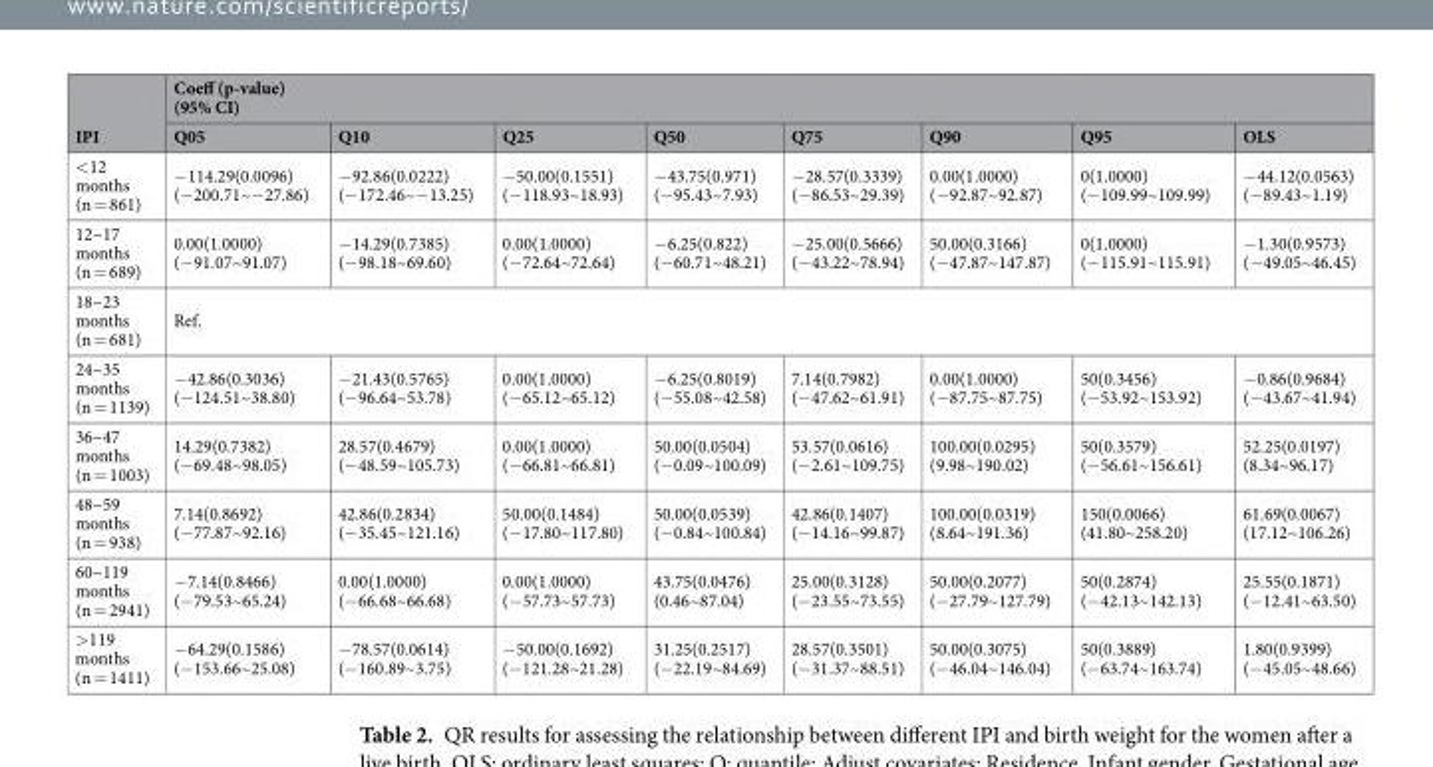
<table><thead><tr><td rowspan="2">IPI</td><td colspan="8">Coeff (p-value) (95% CI)</td></tr><tr><td>Q05</td><td>Q10</td><td>Q25</td><td>Q50</td><td>Q75</td><td>Q90</td><td>Q95</td><td>OLS</td></tr></thead><tbody><tr><td>&lt;12 months (n = 861)</td><td>−114.29(0.0096) (−200.71~−27.86)</td><td>−92.86(0.0222) (−172.46~−13.25)</td><td>−50.00(0.1551) (−118.93~18.93)</td><td>−43.75(0.971) (−95.43~7.93)</td><td>−28.57(0.3339) (−86.53~29.39)</td><td>0.00(1.0000) (−92.87~92.87)</td><td>0(1.0000) (−109.99~109.99)</td><td>−44.12(0.0563) (−89.43~1.19)</td></tr><tr><td>12~17 months (n = 689)</td><td>0.00(1.0000) (−91.07~91.07)</td><td>−14.29(0.7385) (−98.18~69.60)</td><td>0.00(1.0000) (−72.64~72.64)</td><td>−6.25(0.822) (−60.71~48.21)</td><td>−25.00(0.5666) (−43.22~78.94)</td><td>50.00(0.3166) (−47.87~147.87)</td><td>0(1.0000) (−115.91~115.91)</td><td>−1.30(0.9573) (−49.05~46.45)</td></tr><tr><td>18~23 months (n = 681)</td><td colspan="8">Ref.</td></tr><tr><td>24~35 months (n = 1139)</td><td>−42.86(0.3036) (−124.51~38.80)</td><td>−21.43(0.5765) (−96.64~53.78)</td><td>0.00(1.0000) (−65.12~65.12)</td><td>−6.25(0.8019) (−55.08~42.58)</td><td>7.14(0.7982) (−47.62~61.91)</td><td>0.00(1.0000) (−87.75~87.75)</td><td>50(0.3456) (−53.92~153.92)</td><td>−0.86(0.9684) (−43.67~41.94)</td></tr><tr><td>36~47 months (n = 1003)</td><td>14.29(0.7382) (−69.48~98.05)</td><td>28.57(0.4679) (−48.59~105.73)</td><td>0.00(1.0000) (−66.81~66.81)</td><td>50.00(0.0504) (−0.09~100.09)</td><td>53.57(0.0616) (−2.61~109.75)</td><td>100.00(0.0295) (9.98~190.02)</td><td>50(0.3579) (−56.61~156.61)</td><td>52.25(0.0197) (8.34~96.17)</td></tr><tr><td>48~59 months (n = 938)</td><td>7.14(0.8692) (−77.87~92.16)</td><td>42.86(0.2834) (−35.45~121.16)</td><td>50.00(0.1484) (−17.80~117.80)</td><td>50.00(0.0539) (−0.84~100.84)</td><td>42.86(0.1407) (−14.16~99.87)</td><td>100.00(0.0319) (8.64~191.36)</td><td>150(0.0066) (41.80~258.20)</td><td>61.69(0.0067) (17.12~106.26)</td></tr><tr><td>60~119 months (n = 2941)</td><td>−7.14(0.8466) (−79.53~65.24)</td><td>0.00(1.0000) (−66.68~66.68)</td><td>0.00(1.0000) (−57.73~57.73)</td><td>43.75(0.0476) (0.46~87.04)</td><td>25.00(0.3128) (−23.55~73.55)</td><td>50.00(0.2077) (−27.79~127.79)</td><td>50(0.2874) (−42.13~142.13)</td><td>25.55(0.1871) (−12.41~63.50)</td></tr><tr><td>&gt;119 months (n = 1411)</td><td>−64.29(0.1586) (−153.66~25.08)</td><td>−78.57(0.0614) (−160.89~3.75)</td><td>−50.00(0.1692) (−121.28~21.28)</td><td>31.25(0.2517) (−22.19~84.69)</td><td>28.57(0.3501) (−31.37~88.51)</td><td>50.00(0.3075) (−46.04~146.04)</td><td>50(0.3889) (−63.74~163.74)</td><td>1.80(0.9399) (−45.05~48.66)</td></tr></tbody></table>